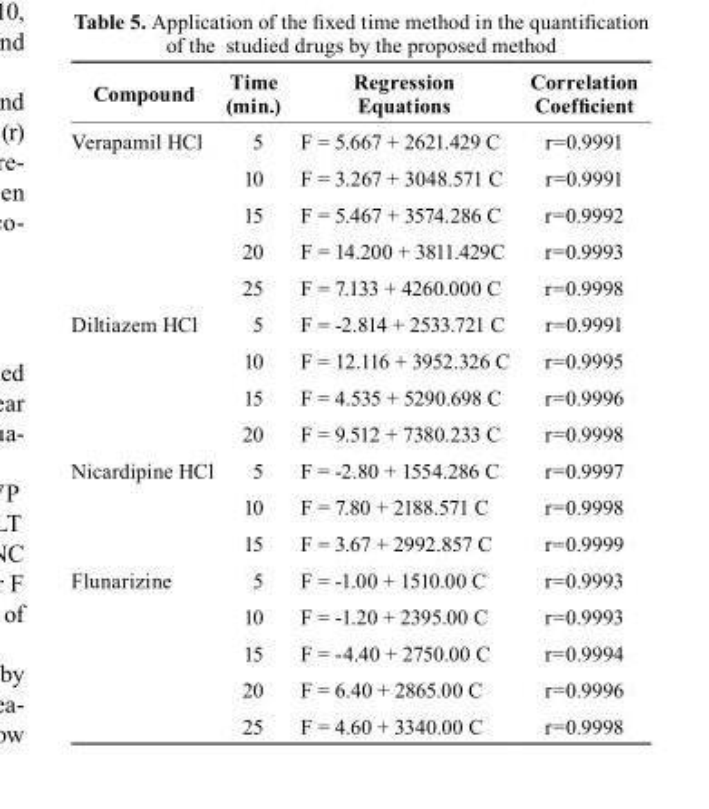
<table><thead><tr><td>Compound</td><td>time (min.)</td><td>regression Equations</td><td>correlation Coefficient</td></tr></thead><tbody><tr><td rowspan="5">Verapamil HCl</td><td>5</td><td>F = 5.667 + 2621.429 C</td><td>r=0.9991</td></tr><tr><td>10</td><td>F = 3.267 + 3048.571 C</td><td>r=0.9991</td></tr><tr><td>15</td><td>F = 5.467 + 3574.286 C</td><td>r=0.9992</td></tr><tr><td>20</td><td>F = 14.200 + 3811.429C</td><td>r=0.9993</td></tr><tr><td>25</td><td>F = 7.133 + 4260.000 C</td><td>r=0.9998</td></tr><tr><td rowspan="4">Diltiazem HCl</td><td>5</td><td>F = -2.814 + 2533.721 C</td><td>r=0.9991</td></tr><tr><td>10</td><td>F = 12.116 + 3952.326 C</td><td>r=0.9995</td></tr><tr><td>15</td><td>F = 4.535 + 5290.698 C</td><td>r=0.9996</td></tr><tr><td>20</td><td>F = 9.512 + 7380.233 C</td><td>r=0.9998</td></tr><tr><td rowspan="3">Nicardipine HCl</td><td>5</td><td>F = -2.80 + 1554.286 C</td><td>r=0.9997</td></tr><tr><td>10</td><td>F = 7.80 + 2188.571 C</td><td>r=0.9998</td></tr><tr><td>15</td><td>F = 3.67 + 2992.857 C</td><td>r=0.9999</td></tr><tr><td rowspan="5">Flunarizine</td><td>5</td><td>F = -1.00 + 1510.00 C</td><td>r=0.9993</td></tr><tr><td>10</td><td>F = -1.20 + 2395.00 C</td><td>r=0.9993</td></tr><tr><td>15</td><td>F = -4.40 + 2750.00 C</td><td>r=0.9994</td></tr><tr><td>20</td><td>F = 6.40 + 2865.00 C</td><td>r=0.9996</td></tr><tr><td>25</td><td>F = 4.60 + 3340.00 C</td><td>r=0.9998</td></tr></tbody></table>